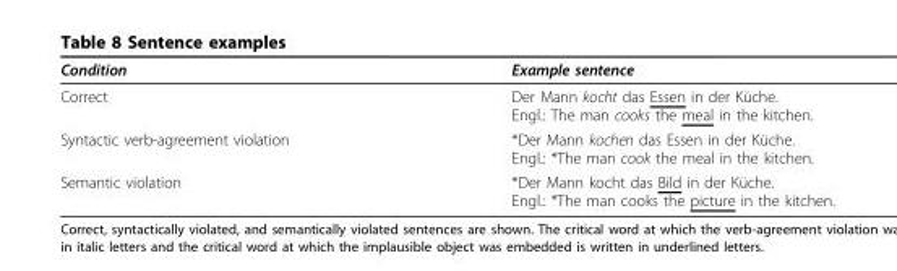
<table><thead><tr><td>Condition</td><td>Example sentence</td></tr></thead><tbody><tr><td>Correct</td><td>Der Mann kocht das Essen in der Küche. Engl.: The man cooks the meal in the kitchen.</td></tr><tr><td>Syntactic verb-agreement violation</td><td>*Der Mann kochen das Essen in der Küche. Engl.: *The man cook the meal in the kitchen.</td></tr><tr><td>Semantic violation</td><td>*Der Mann kocht das Bild in der Küche. Engl.: *The man cooks the picture in the kitchen.</td></tr></tbody></table>